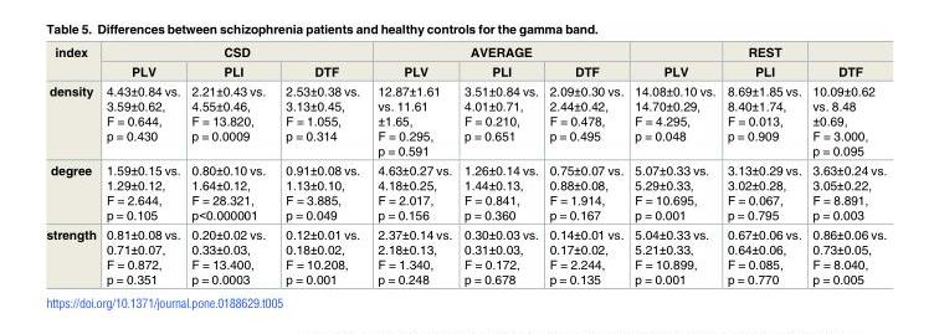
<table><thead><tr><td rowspan="2">index</td><td colspan="3">CSD</td><td colspan="3">AVERAGE</td><td rowspan="2">PLV</td><td rowspan="2">REST PLI</td><td rowspan="2">DTF</td></tr><tr><td>PLV</td><td>PLI</td><td>DTF</td><td>PLV</td><td>PLI</td><td>DTF</td></tr></thead><tbody><tr><td>density</td><td>4.43±0.84 vs. 3.59±0.62, F = 0.644, p = 0.430</td><td>2.21±0.43 vs. 4.55±0.46, F = 13.820, p = 0.0009</td><td>2.53±0.38 vs. 3.13±0.45, F = 1.055, p = 0.314</td><td>12.87±1.61 vs. 11.61 ±1.65, F = 0.295, p = 0.591</td><td>3.51±0.84 vs. 4.01±0.71, F = 0.210, p = 0.651</td><td>2.09±0.30 vs. 2.44±0.42, F = 0.478, p = 0.495</td><td>14.08±0.10 vs. 14.70±0.29, F = 4.295, p = 0.048</td><td>8.69±1.85 vs. 8.40±1.74, F = 0.013, p = 0.909</td><td>10.09±0.62 vs. 8.48 ±0.69, F = 3.000, p = 0.095</td></tr><tr><td>degree</td><td>1.59±0.15 vs. 1.29±0.12, F = 2.644, p = 0.105</td><td>0.80±0.10 vs. 1.64±0.12, F = 28.321, p&lt;0.000001</td><td>0.91±0.08 vs. 1.13±0.10, F = 3.885, p = 0.049</td><td>4.63±0.27 vs. 4.18±0.25, F = 2.017, p = 0.156</td><td>1.26±0.14 vs. 1.44±0.13, F = 0.841, p = 0.360</td><td>0.75±0.07 vs. 0.88±0.08, F = 1.914, p = 0.167</td><td>5.07±0.33 vs. 5.29±0.33, F = 10.695, p = 0.001</td><td>3.13±0.29 vs. 3.02±0.28, F = 0.067, p = 0.795</td><td>3.63±0.24 vs. 3.05±0.22, F = 8.891, p = 0.003</td></tr><tr><td>strength</td><td>0.81±0.08 vs. 0.71±0.07, F = 0.872, p = 0.351</td><td>0.20±0.02 vs. 0.33±0.03, F = 13.400, p = 0.0003</td><td>0.12±0.01 vs. 0.18±0.02, F = 10.208, p = 0.001</td><td>2.37±0.14 vs. 2.18±0.13, F = 1.340, p = 0.248</td><td>0.30±0.03 vs. 0.31±0.03, F = 0.172, p = 0.678</td><td>0.14±0.01 vs. 0.17±0.02, F = 2.244, p = 0.135</td><td>5.04±0.33 vs. 5.21±0.33, F = 10.899, p = 0.001</td><td>0.67±0.06 vs. 0.64±0.06, F = 0.085, p = 0.770</td><td>0.86±0.06 vs. 0.73±0.05, F = 8.040, p = 0.005</td></tr></tbody></table>